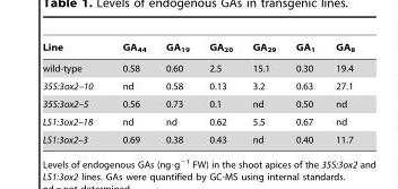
<table><thead><tr><td>Line</td><td>GA<sub>44</sub></td><td>GA<sub>19</sub></td><td>GA<sub>20</sub></td><td>GA<sub>29</sub></td><td>GA<sub>1</sub></td><td>GA<sub>8</sub></td></tr></thead><tbody><tr><td>wild-type</td><td>0.58</td><td>0.60</td><td>2.5</td><td>15.1</td><td>0.30</td><td>19.4</td></tr><tr><td>35S:3ox2–10</td><td>nd</td><td>0.58</td><td>0.13</td><td>3.2</td><td>0.63</td><td>27.1</td></tr><tr><td>35S:3ox2–5</td><td>0.56</td><td>0.73</td><td>0.1</td><td>nd</td><td>0.50</td><td>nd</td></tr><tr><td>LS1:3ox2–18</td><td>nd</td><td>nd</td><td>0.62</td><td>5.5</td><td>0.67</td><td>nd</td></tr><tr><td>LS1:3ox2–3</td><td>0.69</td><td>0.38</td><td>0.43</td><td>nd</td><td>0.40</td><td>11.7</td></tr></tbody></table>